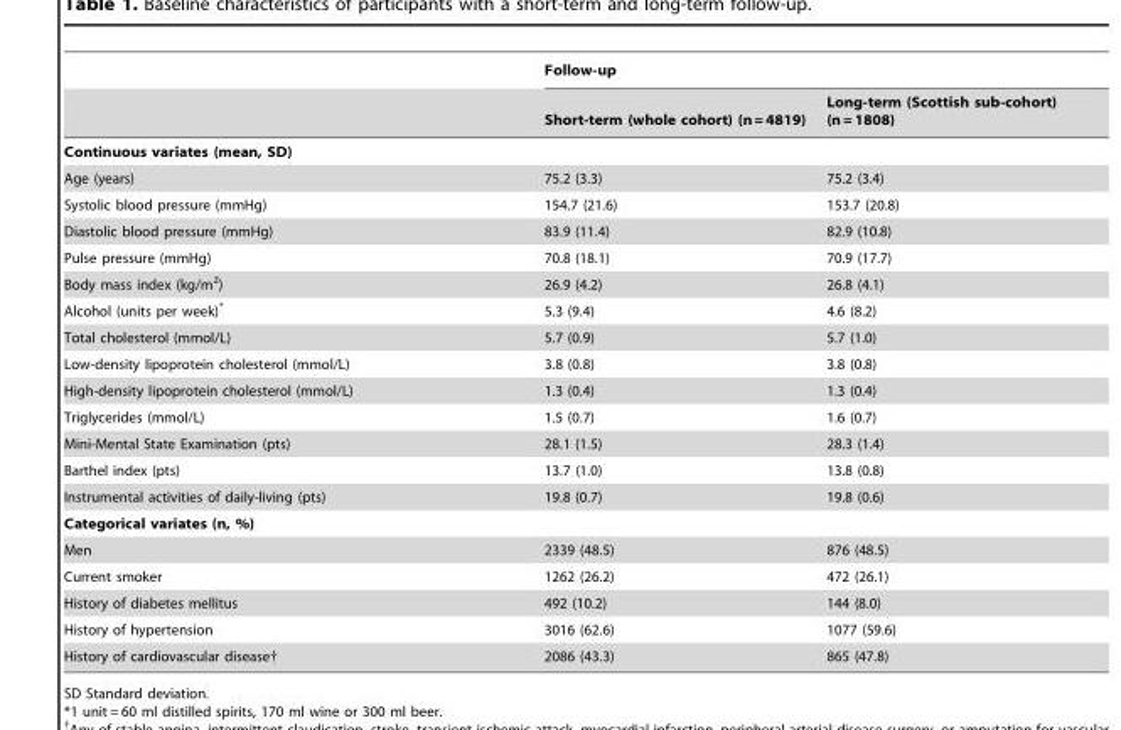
<table><thead><tr><td rowspan="2"></td><td colspan="2">Follow-up</td></tr><tr><td>Short-term (whole cohort) (n = 4819)</td><td>Long-term (Scottish sub-cohort) (n = 1808)</td></tr></thead><tbody><tr><td colspan="3">Continuous variates (mean, SD)</td></tr><tr><td>Age (years)</td><td>75.2 (3.3)</td><td>75.2 (3.4)</td></tr><tr><td>Systolic blood pressure (mmHg)</td><td>154.7 (21.6)</td><td>153.7 (20.8)</td></tr><tr><td>Diastolic blood pressure (mmHg)</td><td>83.9 (11.4)</td><td>82.9 (10.8)</td></tr><tr><td>Pulse pressure (mmHg)</td><td>70.8 (18.1)</td><td>70.9 (17.7)</td></tr><tr><td>Body mass index (kg/m<sup>2</sup>)</td><td>26.9 (4.2)</td><td>26.8 (4.1)</td></tr><tr><td>Alcohol (units per week)*</td><td>5.3 (9.4)</td><td>4.6 (8.2)</td></tr><tr><td>Total cholesterol (mmol/L)</td><td>5.7 (0.9)</td><td>5.7 (1.0)</td></tr><tr><td>Low-density lipoprotein cholesterol (mmol/L)</td><td>3.8 (0.8)</td><td>3.8 (0.8)</td></tr><tr><td>High-density lipoprotein cholesterol (mmol/L)</td><td>1.3 (0.4)</td><td>1.3 (0.4)</td></tr><tr><td>Triglycerides (mmol/L)</td><td>1.5 (0.7)</td><td>1.6 (0.7)</td></tr><tr><td>Mini-Mental State Examination (pts)</td><td>28.1 (1.5)</td><td>28.3 (1.4)</td></tr><tr><td>Barthel index (pts)</td><td>13.7 (1.0)</td><td>13.8 (0.8)</td></tr><tr><td>Instrumental activities of daily-living (pts)</td><td>19.8 (0.7)</td><td>19.8 (0.6)</td></tr><tr><td colspan="3">Categorical variates (n, %)</td></tr><tr><td>Men</td><td>2339 (48.5)</td><td>876 (48.5)</td></tr><tr><td>Current smoker</td><td>1262 (26.2)</td><td>472 (26.1)</td></tr><tr><td>History of diabetes mellitus</td><td>492 (10.2)</td><td>144 (8.0)</td></tr><tr><td>History of hypertension</td><td>3016 (62.6)</td><td>1077 (59.6)</td></tr><tr><td>History of cardiovascular disease†</td><td>2086 (43.3)</td><td>865 (47.8)</td></tr></tbody></table>